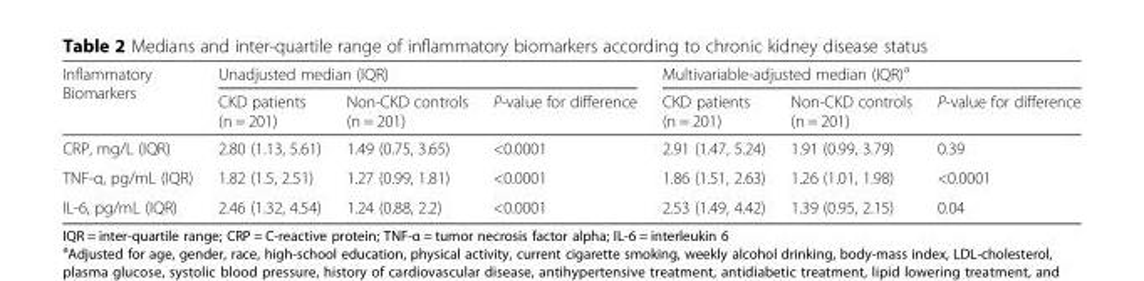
<table><thead><tr><td rowspan="2">Inflammatory Biomarkers</td><td colspan="3">Unadjusted median (IQR)</td><td colspan="3">Multivariable-adjusted median (IQR)<sup>a</sup></td></tr><tr><td>CKD patients (n = 201)</td><td>Non-CKD controls (n = 201)</td><td>P-value for difference</td><td>CKD patients (n = 201)</td><td>Non-CKD controls (n = 201)</td><td>P-value for difference</td></tr></thead><tbody><tr><td>CRP, mg/L (IQR)</td><td>2.80 (1.13, 5.61)</td><td>1.49 (0.75, 3.65)</td><td>&lt;0.0001</td><td>2.91 (1.47, 5.24)</td><td>1.91 (0.99, 3.79)</td><td>0.39</td></tr><tr><td>TNF-α, pg/mL (IQR)</td><td>1.82 (1.5, 2.51)</td><td>1.27 (0.99, 1.81)</td><td>&lt;0.0001</td><td>1.86 (1.51, 2.63)</td><td>1.26 (1.01, 1.98)</td><td>&lt;0.0001</td></tr><tr><td>IL-6, pg/mL (IQR)</td><td>2.46 (1.32, 4.54)</td><td>1.24 (0.88, 2.2)</td><td>&lt;0.0001</td><td>2.53 (1.49, 4.42)</td><td>1.39 (0.95, 2.15)</td><td>0.04</td></tr></tbody></table>